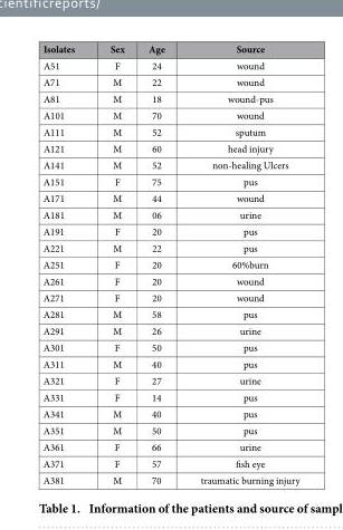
<table><thead><tr><td>Isolates</td><td>Sex</td><td>Age</td><td>Source</td></tr></thead><tbody><tr><td>A51</td><td>F</td><td>24</td><td>wound</td></tr><tr><td>A71</td><td>M</td><td>22</td><td>wound</td></tr><tr><td>A81</td><td>M</td><td>18</td><td>wound-pus</td></tr><tr><td>A101</td><td>M</td><td>70</td><td>wound</td></tr><tr><td>A111</td><td>M</td><td>52</td><td>sputum</td></tr><tr><td>A121</td><td>M</td><td>60</td><td>head injury</td></tr><tr><td>A141</td><td>M</td><td>52</td><td>non-healing Ulcers</td></tr><tr><td>A151</td><td>F</td><td>75</td><td>pus</td></tr><tr><td>A171</td><td>M</td><td>44</td><td>wound</td></tr><tr><td>A181</td><td>M</td><td>06</td><td>urine</td></tr><tr><td>A191</td><td>F</td><td>20</td><td>pus</td></tr><tr><td>A221</td><td>M</td><td>22</td><td>pus</td></tr><tr><td>A251</td><td>F</td><td>20</td><td>60%burn</td></tr><tr><td>A261</td><td>F</td><td>20</td><td>wound</td></tr><tr><td>A271</td><td>F</td><td>20</td><td>wound</td></tr><tr><td>A281</td><td>M</td><td>58</td><td>pus</td></tr><tr><td>A291</td><td>M</td><td>26</td><td>urine</td></tr><tr><td>A301</td><td>F</td><td>50</td><td>pus</td></tr><tr><td>A311</td><td>M</td><td>40</td><td>pus</td></tr><tr><td>A321</td><td>F</td><td>27</td><td>urine</td></tr><tr><td>A331</td><td>F</td><td>14</td><td>pus</td></tr><tr><td>A341</td><td>M</td><td>40</td><td>pus</td></tr><tr><td>A351</td><td>M</td><td>50</td><td>pus</td></tr><tr><td>A361</td><td>F</td><td>66</td><td>urine</td></tr><tr><td>A371</td><td>F</td><td>57</td><td>fish eye</td></tr><tr><td>A381</td><td>M</td><td>70</td><td>traumatic burning injury</td></tr></tbody></table>